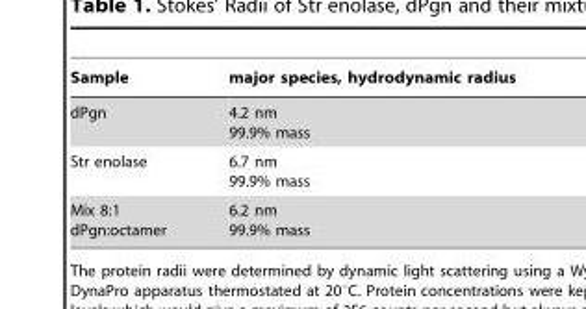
<table><thead><tr><td>Sample</td><td>major species, hydrodynamic radius</td></tr></thead><tbody><tr><td>dPgn</td><td>4.2 nm 99.9% mass</td></tr><tr><td>Str enolase</td><td>6.7 nm 99.9% mass</td></tr><tr><td>Mix 8:1 dPgn:octamer</td><td>6.2 nm 99.9% mass</td></tr></tbody></table>